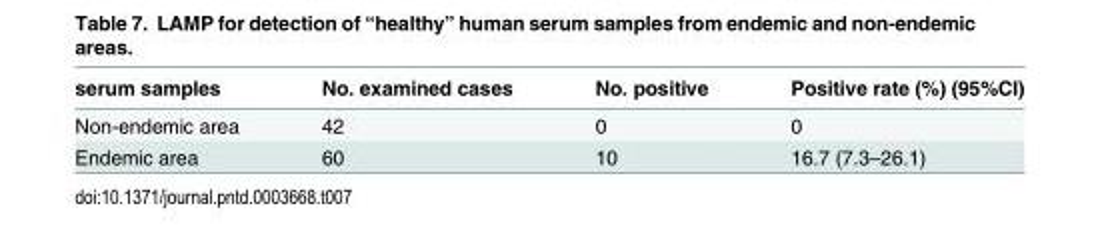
<table><thead><tr><td>serum samples</td><td>No. examined cases</td><td>No. positive</td><td>Positive rate (%) (95%CI)</td></tr></thead><tbody><tr><td>Non-endemic area</td><td>42</td><td>0</td><td>0</td></tr><tr><td>Endemic area</td><td>60</td><td>10</td><td>16.7 (7.3–26.1)</td></tr></tbody></table>